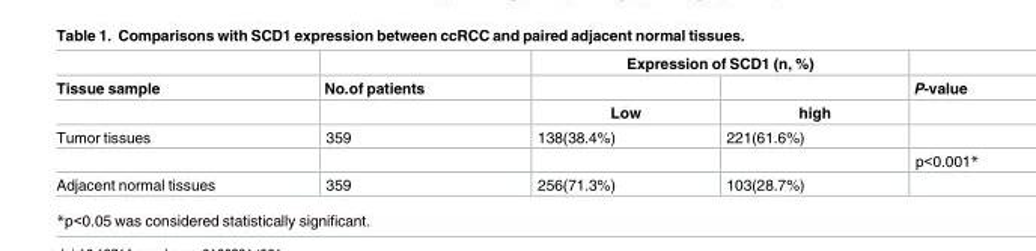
<table><thead><tr><td rowspan="3">Tissue sample</td><td rowspan="3">No.of patients</td><td colspan="2">Expression of SCD1 (n, %)</td><td rowspan="3">P-value</td></tr><tr><td rowspan="2">Low</td><td rowspan="2">high</td></tr><tr></tr></thead><tbody><tr><td rowspan="2">Tumor tissues</td><td>359</td><td>138(38.4%)</td><td>221(61.6%)</td><td></td></tr><tr><td></td><td></td><td></td><td>p&lt;0.001*</td></tr><tr><td>Adjacent normal tissues</td><td>359</td><td>256(71.3%)</td><td>103(28.7%)</td><td></td></tr></tbody></table>